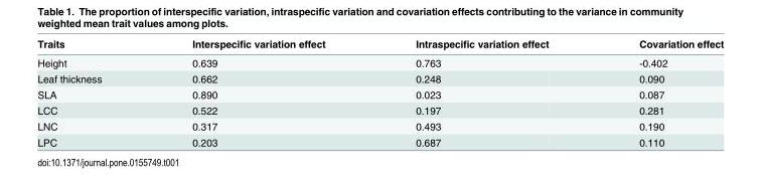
<table><thead><tr><td>Traits</td><td>Interspecific variation effect</td><td>Intraspecific variation effect</td><td>Covariation effect</td></tr></thead><tbody><tr><td>Height</td><td>0.639</td><td>0.763</td><td>-0.402</td></tr><tr><td>Leaf thickness</td><td>0.662</td><td>0.248</td><td>0.090</td></tr><tr><td>SLA</td><td>0.890</td><td>0.023</td><td>0.087</td></tr><tr><td>LCC</td><td>0.522</td><td>0.197</td><td>0.281</td></tr><tr><td>LNC</td><td>0.317</td><td>0.493</td><td>0.190</td></tr><tr><td>LPC</td><td>0.203</td><td>0.687</td><td>0.110</td></tr></tbody></table>